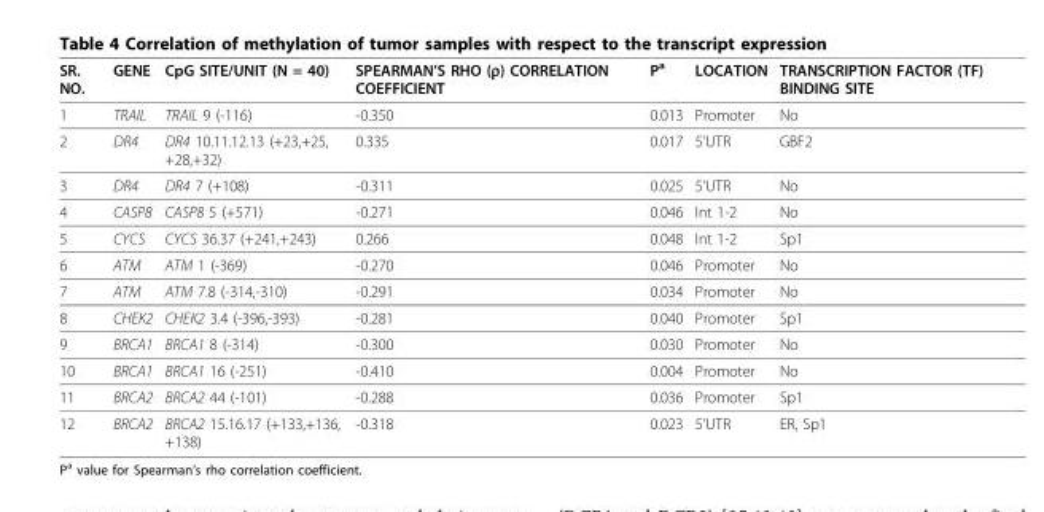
<table><thead><tr><td>SR. NO.</td><td>GENE</td><td>CpG SITE/UNIT (N = 40)</td><td>SPEARMAN’S RHO (ρ) CORRELATION COEFFICIENT</td><td>P<sup>a</sup></td><td>LOCATION</td><td>TRANSCRIPTION FACTOR (TF) BINDING SITE</td></tr></thead><tbody><tr><td>1</td><td>TRAIL</td><td>TRAIL 9 (-116)</td><td>-0.350</td><td>0.013</td><td>Promoter</td><td>No</td></tr><tr><td>2</td><td>DR4</td><td>DR4 10.11.12.13 (+23,+25, +28,+32)</td><td>0.335</td><td>0.017</td><td>5’UTR</td><td>GBF2</td></tr><tr><td>3</td><td>DR4</td><td>DR4 7 (+108)</td><td>-0.311</td><td>0.025</td><td>5’UTR</td><td>No</td></tr><tr><td>4</td><td>CASP8</td><td>CASP8 5 (+571)</td><td>-0.271</td><td>0.046</td><td>Int 1-2</td><td>No</td></tr><tr><td>5</td><td>CYCS</td><td>CYCS 36.37 (+241,+243)</td><td>0.266</td><td>0.048</td><td>Int 1-2</td><td>Sp1</td></tr><tr><td>6</td><td>ATM</td><td>ATM 1 (-369)</td><td>-0.270</td><td>0.046</td><td>Promoter</td><td>No</td></tr><tr><td>7</td><td>ATM</td><td>ATM 7.8 (-314,-310)</td><td>-0.291</td><td>0.034</td><td>Promoter</td><td>No</td></tr><tr><td>8</td><td>CHEK2</td><td>CHEK2 3.4 (-396,-393)</td><td>-0.281</td><td>0.040</td><td>Promoter</td><td>Sp1</td></tr><tr><td>9</td><td>BRCA1</td><td>BRCA1 8 (-314)</td><td>-0.300</td><td>0.030</td><td>Promoter</td><td>No</td></tr><tr><td>10</td><td>BRCA1</td><td>BRCA1 16 (-251)</td><td>-0.410</td><td>0.004</td><td>Promoter</td><td>No</td></tr><tr><td>11</td><td>BRCA2</td><td>BRCA2 44 (-101)</td><td>-0.288</td><td>0.036</td><td>Promoter</td><td>Sp1</td></tr><tr><td>12</td><td>BRCA2</td><td>BRCA2 15.16.17 (+133,+136, +138)</td><td>-0.318</td><td>0.023</td><td>5’UTR</td><td>ER, Sp1</td></tr></tbody></table>